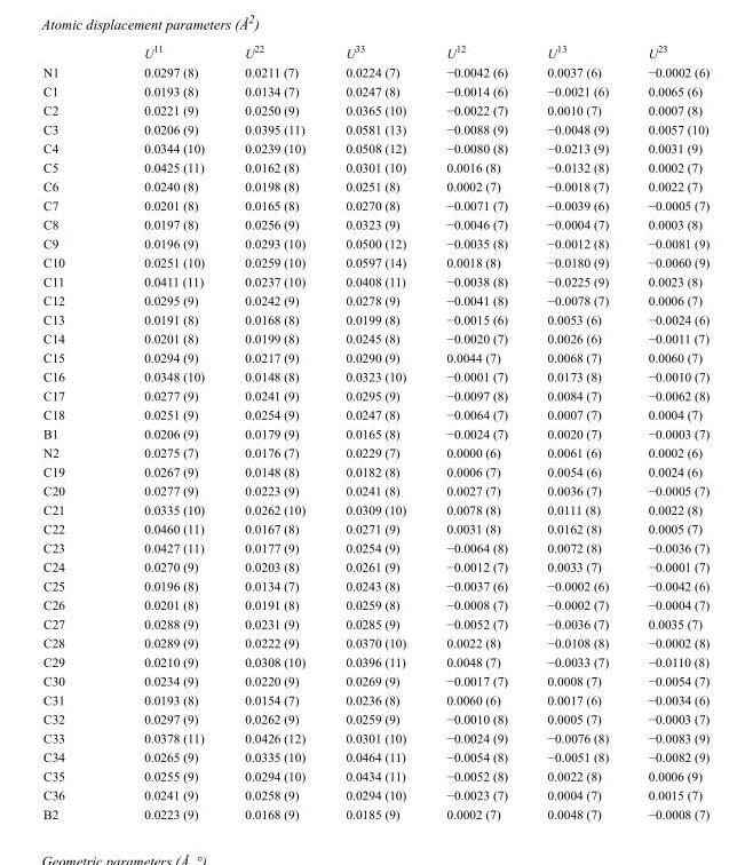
<table><thead><tr><td></td><td>U<sup>11</sup></td><td>U<sup>22</sup></td><td>U<sup>33</sup></td><td>U<sup>12</sup></td><td>U<sup>13</sup></td><td>U<sup>23</sup></td></tr></thead><tbody><tr><td>N1</td><td>0.0297 (8)</td><td>0.0211 (7)</td><td>0.0224 (7)</td><td>−0.0042 (6)</td><td>0.0037 (6)</td><td>−0.0002 (6)</td></tr><tr><td>C1</td><td>0.0193 (8)</td><td>0.0134 (7)</td><td>0.0247 (8)</td><td>−0.0014 (6)</td><td>−0.0021 (6)</td><td>0.0065 (6)</td></tr><tr><td>C2</td><td>0.0221 (9)</td><td>0.0250 (9)</td><td>0.0365 (10)</td><td>−0.0022 (7)</td><td>0.0010 (7)</td><td>0.0007 (8)</td></tr><tr><td>C3</td><td>0.0206 (9)</td><td>0.0395 (11)</td><td>0.0581 (13)</td><td>−0.0088 (9)</td><td>−0.0048 (9)</td><td>0.0057 (10)</td></tr><tr><td>C4</td><td>0.0344 (10)</td><td>0.0239 (10)</td><td>0.0508 (12)</td><td>−0.0080 (8)</td><td>−0.0213 (9)</td><td>0.0031 (9)</td></tr><tr><td>C5</td><td>0.0425 (11)</td><td>0.0162 (8)</td><td>0.0301 (10)</td><td>0.0016 (8)</td><td>−0.0132 (8)</td><td>0.0002 (7)</td></tr><tr><td>C6</td><td>0.0240 (8)</td><td>0.0198 (8)</td><td>0.0251 (8)</td><td>0.0002 (7)</td><td>−0.0018 (7)</td><td>0.0022 (7)</td></tr><tr><td>C7</td><td>0.0201 (8)</td><td>0.0165 (8)</td><td>0.0270 (8)</td><td>−0.0071 (7)</td><td>−0.0039 (6)</td><td>−0.0005 (7)</td></tr><tr><td>C8</td><td>0.0197 (8)</td><td>0.0256 (9)</td><td>0.0323 (9)</td><td>−0.0046 (7)</td><td>−0.0004 (7)</td><td>0.0003 (8)</td></tr><tr><td>C9</td><td>0.0196 (9)</td><td>0.0293 (10)</td><td>0.0500 (12)</td><td>−0.0035 (8)</td><td>−0.0012 (8)</td><td>−0.0081 (9)</td></tr><tr><td>C10</td><td>0.0251 (10)</td><td>0.0259 (10)</td><td>0.0597 (14)</td><td>0.0018 (8)</td><td>−0.0180 (9)</td><td>−0.0060 (9)</td></tr><tr><td>C11</td><td>0.0411 (11)</td><td>0.0237 (10)</td><td>0.0408 (11)</td><td>−0.0038 (8)</td><td>−0.0225 (9)</td><td>0.0023 (8)</td></tr><tr><td>C12</td><td>0.0295 (9)</td><td>0.0242 (9)</td><td>0.0278 (9)</td><td>−0.0041 (8)</td><td>−0.0078 (7)</td><td>0.0006 (7)</td></tr><tr><td>C13</td><td>0.0191 (8)</td><td>0.0168 (8)</td><td>0.0199 (8)</td><td>−0.0015 (6)</td><td>0.0053 (6)</td><td>−0.0024 (6)</td></tr><tr><td>C14</td><td>0.0201 (8)</td><td>0.0199 (8)</td><td>0.0245 (8)</td><td>−0.0020 (7)</td><td>0.0026 (6)</td><td>−0.0011 (7)</td></tr><tr><td>C15</td><td>0.0294 (9)</td><td>0.0217 (9)</td><td>0.0290 (9)</td><td>0.0044 (7)</td><td>0.0068 (7)</td><td>0.0060 (7)</td></tr><tr><td>C16</td><td>0.0348 (10)</td><td>0.0148 (8)</td><td>0.0323 (10)</td><td>−0.0001 (7)</td><td>0.0173 (8)</td><td>−0.0010 (7)</td></tr><tr><td>C17</td><td>0.0277 (9)</td><td>0.0241 (9)</td><td>0.0295 (9)</td><td>−0.0097 (8)</td><td>0.0084 (7)</td><td>−0.0062 (8)</td></tr><tr><td>C18</td><td>0.0251 (9)</td><td>0.0254 (9)</td><td>0.0247 (8)</td><td>−0.0064 (7)</td><td>0.0007 (7)</td><td>0.0004 (7)</td></tr><tr><td>B1</td><td>0.0206 (9)</td><td>0.0179 (9)</td><td>0.0165 (8)</td><td>−0.0024 (7)</td><td>0.0020 (7)</td><td>−0.0003 (7)</td></tr><tr><td>N2</td><td>0.0275 (7)</td><td>0.0176 (7)</td><td>0.0229 (7)</td><td>0.0000 (6)</td><td>0.0061 (6)</td><td>0.0002 (6)</td></tr><tr><td>C19</td><td>0.0267 (9)</td><td>0.0148 (8)</td><td>0.0182 (8)</td><td>0.0006 (7)</td><td>0.0054 (6)</td><td>0.0024 (6)</td></tr><tr><td>C20</td><td>0.0277 (9)</td><td>0.0223 (9)</td><td>0.0241 (8)</td><td>0.0027 (7)</td><td>0.0036 (7)</td><td>−0.0005 (7)</td></tr><tr><td>C21</td><td>0.0335 (10)</td><td>0.0262 (10)</td><td>0.0309 (10)</td><td>0.0078 (8)</td><td>0.0111 (8)</td><td>0.0022 (8)</td></tr><tr><td>C22</td><td>0.0460 (11)</td><td>0.0167 (8)</td><td>0.0271 (9)</td><td>0.0031 (8)</td><td>0.0162 (8)</td><td>0.0005 (7)</td></tr><tr><td>C23</td><td>0.0427 (11)</td><td>0.0177 (9)</td><td>0.0254 (9)</td><td>−0.0064 (8)</td><td>0.0072 (8)</td><td>−0.0036 (7)</td></tr><tr><td>C24</td><td>0.0270 (9)</td><td>0.0203 (8)</td><td>0.0261 (9)</td><td>−0.0012 (7)</td><td>0.0033 (7)</td><td>−0.0001 (7)</td></tr><tr><td>C25</td><td>0.0196 (8)</td><td>0.0134 (7)</td><td>0.0243 (8)</td><td>−0.0037 (6)</td><td>−0.0002 (6)</td><td>−0.0042 (6)</td></tr><tr><td>C26</td><td>0.0201 (8)</td><td>0.0191 (8)</td><td>0.0259 (8)</td><td>−0.0008 (7)</td><td>−0.0002 (7)</td><td>−0.0004 (7)</td></tr><tr><td>C27</td><td>0.0288 (9)</td><td>0.0231 (9)</td><td>0.0285 (9)</td><td>−0.0052 (7)</td><td>−0.0036 (7)</td><td>0.0035 (7)</td></tr><tr><td>C28</td><td>0.0289 (9)</td><td>0.0222 (9)</td><td>0.0370 (10)</td><td>0.0022 (8)</td><td>−0.0108 (8)</td><td>−0.0002 (8)</td></tr><tr><td>C29</td><td>0.0210 (9)</td><td>0.0308 (10)</td><td>0.0396 (11)</td><td>0.0048 (7)</td><td>−0.0033 (7)</td><td>−0.0110 (8)</td></tr><tr><td>C30</td><td>0.0234 (9)</td><td>0.0220 (9)</td><td>0.0269 (9)</td><td>−0.0017 (7)</td><td>0.0008 (7)</td><td>−0.0054 (7)</td></tr><tr><td>C31</td><td>0.0193 (8)</td><td>0.0154 (7)</td><td>0.0236 (8)</td><td>0.0060 (6)</td><td>0.0017 (6)</td><td>−0.0034 (6)</td></tr><tr><td>C32</td><td>0.0297 (9)</td><td>0.0262 (9)</td><td>0.0259 (9)</td><td>−0.0010 (8)</td><td>0.0005 (7)</td><td>−0.0003 (7)</td></tr><tr><td>C33</td><td>0.0378 (11)</td><td>0.0426 (12)</td><td>0.0301 (10)</td><td>−0.0024 (9)</td><td>−0.0076 (8)</td><td>−0.0083 (9)</td></tr><tr><td>C34</td><td>0.0265 (9)</td><td>0.0335 (10)</td><td>0.0464 (11)</td><td>−0.0054 (8)</td><td>−0.0051 (8)</td><td>−0.0082 (9)</td></tr><tr><td>C35</td><td>0.0255 (9)</td><td>0.0294 (10)</td><td>0.0434 (11)</td><td>−0.0052 (8)</td><td>0.0022 (8)</td><td>0.0006 (9)</td></tr><tr><td>C36</td><td>0.0241 (9)</td><td>0.0258 (9)</td><td>0.0294 (10)</td><td>−0.0023 (7)</td><td>0.0004 (7)</td><td>0.0015 (7)</td></tr><tr><td>B2</td><td>0.0223 (9)</td><td>0.0168 (9)</td><td>0.0185 (9)</td><td>0.0002 (7)</td><td>0.0048 (7)</td><td>−0.0008 (7)</td></tr></tbody></table>